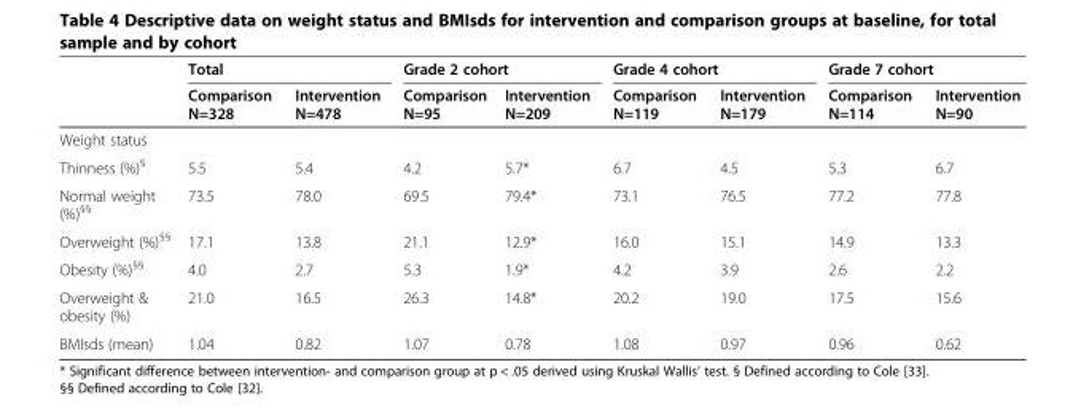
<table><thead><tr><td rowspan="2"></td><td colspan="2">Total</td><td colspan="2">Grade 2 cohort</td><td colspan="2">Grade 4 cohort</td><td colspan="2">Grade 7 cohort</td></tr><tr><td>Comparison N=328</td><td>Intervention N=478</td><td>Comparison N=95</td><td>Intervention N=209</td><td>Comparison N=119</td><td>Intervention N=179</td><td>Comparison N=114</td><td>Intervention N=90</td></tr></thead><tbody><tr><td colspan="9">Weight status</td></tr><tr><td>Thinness (%)<sup>§</sup></td><td>5.5</td><td>5.4</td><td>4.2</td><td>5.7*</td><td>6.7</td><td>4.5</td><td>5.3</td><td>6.7</td></tr><tr><td>Normal weight (%)<sup>§§</sup></td><td>73.5</td><td>78.0</td><td>69.5</td><td>79.4*</td><td>73.1</td><td>76.5</td><td>77.2</td><td>77.8</td></tr><tr><td>Overweight (%)<sup>§§</sup></td><td>17.1</td><td>13.8</td><td>21.1</td><td>12.9*</td><td>16.0</td><td>15.1</td><td>14.9</td><td>13.3</td></tr><tr><td>Obesity (%)<sup>§§</sup></td><td>4.0</td><td>2.7</td><td>5.3</td><td>1.9*</td><td>4.2</td><td>3.9</td><td>2.6</td><td>2.2</td></tr><tr><td>Overweight &amp; obesity (%)</td><td>21.0</td><td>16.5</td><td>26.3</td><td>14.8*</td><td>20.2</td><td>19.0</td><td>17.5</td><td>15.6</td></tr><tr><td>BMIsds (mean)</td><td>1.04</td><td>0.82</td><td>1.07</td><td>0.78</td><td>1.08</td><td>0.97</td><td>0.96</td><td>0.62</td></tr></tbody></table>